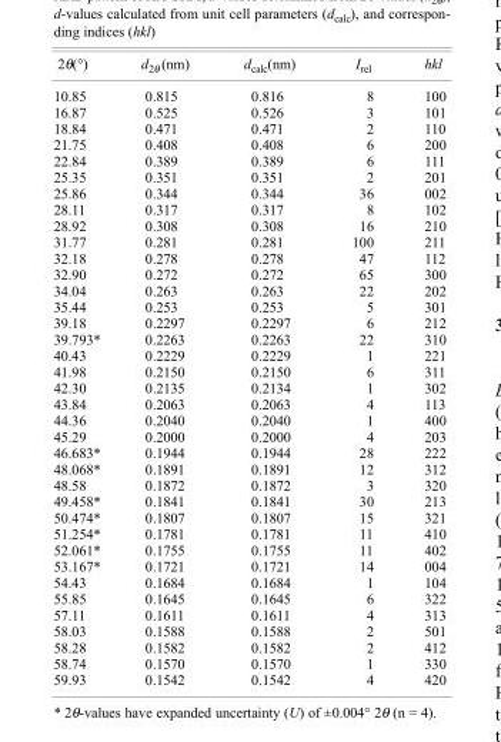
<table><thead><tr><td>2θ(°)</td><td>d<sub>2θ</sub> (nm)</td><td>d<sub>calc</sub>(nm)</td><td>I<sub>rel</sub></td><td>hkl</td></tr></thead><tbody><tr><td>10.85</td><td>0.815</td><td>0.816</td><td>8</td><td>100</td></tr><tr><td>16.87</td><td>0.525</td><td>0.526</td><td>3</td><td>101</td></tr><tr><td>18.84</td><td>0.471</td><td>0.471</td><td>2</td><td>110</td></tr><tr><td>21.75</td><td>0.408</td><td>0.408</td><td>6</td><td>200</td></tr><tr><td>22.84</td><td>0.389</td><td>0.389</td><td>6</td><td>111</td></tr><tr><td>25.35</td><td>0.351</td><td>0.351</td><td>2</td><td>201</td></tr><tr><td>25.86</td><td>0.344</td><td>0.344</td><td>36</td><td>002</td></tr><tr><td>28.11</td><td>0.317</td><td>0.317</td><td>8</td><td>102</td></tr><tr><td>28.92</td><td>0.308</td><td>0.308</td><td>16</td><td>210</td></tr><tr><td>31.77</td><td>0.281</td><td>0.281</td><td>100</td><td>211</td></tr><tr><td>32.18</td><td>0.278</td><td>0.278</td><td>47</td><td>112</td></tr><tr><td>32.90</td><td>0.272</td><td>0.272</td><td>65</td><td>300</td></tr><tr><td>34.04</td><td>0.263</td><td>0.263</td><td>22</td><td>202</td></tr><tr><td>35.44</td><td>0.253</td><td>0.253</td><td>5</td><td>301</td></tr><tr><td>39.18</td><td>0.2297</td><td>0.2297</td><td>6</td><td>212</td></tr><tr><td>39.793*</td><td>0.2263</td><td>0.2263</td><td>22</td><td>310</td></tr><tr><td>40.43</td><td>0.2229</td><td>0.2229</td><td>1</td><td>221</td></tr><tr><td>41.98</td><td>0.2150</td><td>0.2150</td><td>6</td><td>311</td></tr><tr><td>42.30</td><td>0.2135</td><td>0.2134</td><td>1</td><td>302</td></tr><tr><td>43.84</td><td>0.2063</td><td>0.2063</td><td>4</td><td>113</td></tr><tr><td>44.36</td><td>0.2040</td><td>0.2040</td><td>1</td><td>400</td></tr><tr><td>45.29</td><td>0.2000</td><td>0.2000</td><td>4</td><td>203</td></tr><tr><td>46.683*</td><td>0.1944</td><td>0.1944</td><td>28</td><td>222</td></tr><tr><td>48.068*</td><td>0.1891</td><td>0.1891</td><td>12</td><td>312</td></tr><tr><td>48.58</td><td>0.1872</td><td>0.1872</td><td>3</td><td>320</td></tr><tr><td>49.458*</td><td>0.1841</td><td>0.1841</td><td>30</td><td>213</td></tr><tr><td>50.474*</td><td>0.1807</td><td>0.1807</td><td>15</td><td>321</td></tr><tr><td>51.254*</td><td>0.1781</td><td>0.1781</td><td>11</td><td>410</td></tr><tr><td>52.061*</td><td>0.1755</td><td>0.1755</td><td>11</td><td>402</td></tr><tr><td>53.167*</td><td>0.1721</td><td>0.1721</td><td>14</td><td>004</td></tr><tr><td>54.43</td><td>0.1684</td><td>0.1684</td><td>1</td><td>104</td></tr><tr><td>55.85</td><td>0.1645</td><td>0.1645</td><td>6</td><td>322</td></tr><tr><td>57.11</td><td>0.1611</td><td>0.1611</td><td>4</td><td>313</td></tr><tr><td>58.03</td><td>0.1588</td><td>0.1588</td><td>2</td><td>501</td></tr><tr><td>58.28</td><td>0.1582</td><td>0.1582</td><td>2</td><td>412</td></tr><tr><td>58.74</td><td>0.1570</td><td>0.1570</td><td>1</td><td>330</td></tr><tr><td>59.93</td><td>0.1542</td><td>0.1542</td><td>4</td><td>420</td></tr></tbody></table>